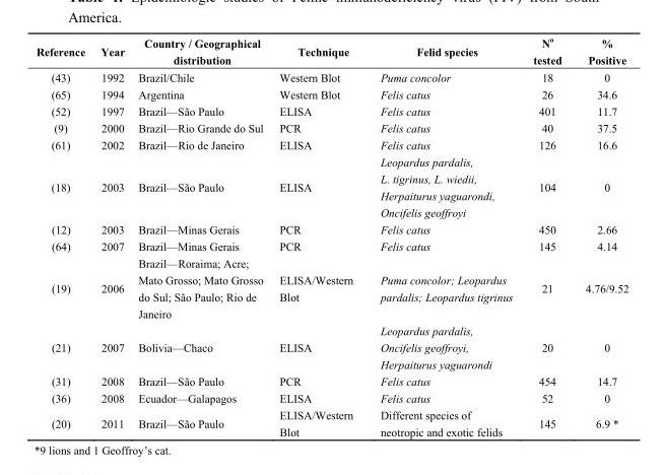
<table><thead><tr><td>Reference</td><td>Year</td><td>Country / Geographical distribution</td><td>Technique</td><td>Felid species</td><td>N<sup>o</sup> tested</td><td>% Positive</td></tr></thead><tbody><tr><td>(43)</td><td>1992</td><td>Brazil/Chile</td><td>Western Blot</td><td>Puma concolor</td><td>18</td><td>0</td></tr><tr><td>(65)</td><td>1994</td><td>Argentina</td><td>Western Blot</td><td>Felis catus</td><td>26</td><td>34.6</td></tr><tr><td>(52)</td><td>1997</td><td>Brazil—São Paulo</td><td>ELISA</td><td>Felis catus</td><td>401</td><td>11.7</td></tr><tr><td>(9)</td><td>2000</td><td>Brazil—Rio Grande do Sul</td><td>PCR</td><td>Felis catus</td><td>40</td><td>37.5</td></tr><tr><td>(61)</td><td>2002</td><td>Brazil—Rio de Janeiro</td><td>ELISA</td><td>Felis catus</td><td>126</td><td>16.6</td></tr><tr><td>(18)</td><td>2003</td><td>Brazil—São Paulo</td><td>ELISA</td><td>Leopardus pardalis, L. tigrinus, L. wiedii, Herpaiturus yaguarondi, Oncifelis geoffroyi</td><td>104</td><td>0</td></tr><tr><td>(12)</td><td>2003</td><td>Brazil—Minas Gerais</td><td>PCR</td><td>Felis catus</td><td>450</td><td>2.66</td></tr><tr><td>(64)</td><td>2007</td><td>Brazil—Minas Gerais</td><td>PCR</td><td>Felis catus</td><td>145</td><td>4.14</td></tr><tr><td>(19)</td><td>2006</td><td>Brazil—Roraima; Acre; Mato Grosso; Mato Grosso do Sul; São Paulo; Rio de Janeiro</td><td>ELISA/Western Blot</td><td>Puma concolor; Leopardus pardalis; Leopardus tigrinus</td><td>21</td><td>4.76/9.52</td></tr><tr><td>(21)</td><td>2007</td><td>Bolivia—Chaco</td><td>ELISA</td><td>Leopardus pardalis, Oncifelis geoffroyi, Herpaiturus yaguarondi</td><td>20</td><td>0</td></tr><tr><td>(31)</td><td>2008</td><td>Brazil—São Paulo</td><td>PCR</td><td>Felis catus</td><td>454</td><td>14.7</td></tr><tr><td>(36)</td><td>2008</td><td>Ecuador—Galapagos</td><td>ELISA</td><td>Felis catus</td><td>52</td><td>0</td></tr><tr><td>(20)</td><td>2011</td><td>Brazil—São Paulo</td><td>ELISA/Western Blot</td><td>Different species of neotropic and exotic felids</td><td>145</td><td>6.9 *</td></tr></tbody></table>